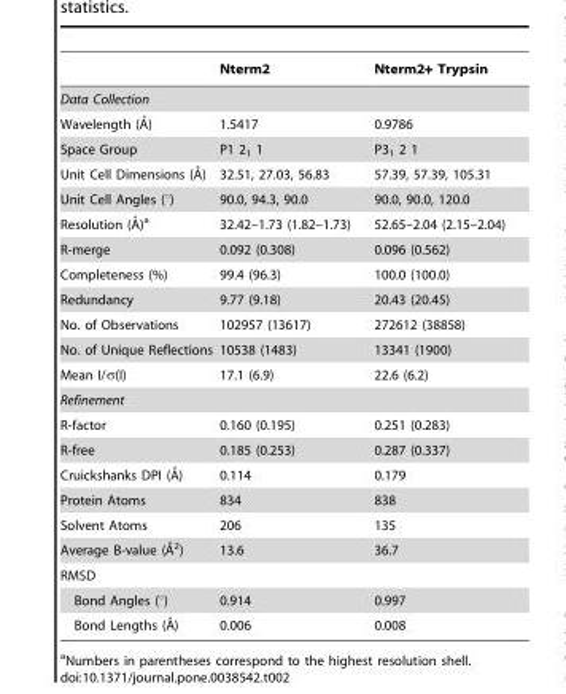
<table><thead><tr><td></td><td>Nterm2</td><td>Nterm2+ Trypsin</td></tr></thead><tbody><tr><td colspan="3">Data Collection</td></tr><tr><td>Wavelength (A˚)</td><td>1.5417</td><td>0.9786</td></tr><tr><td>Space Group</td><td>P1 2<sub>1</sub> 1</td><td>P3<sub>1</sub> 2 1</td></tr><tr><td>Unit Cell Dimensions (A˚)</td><td>32.51, 27.03, 56.83</td><td>57.39, 57.39, 105.31</td></tr><tr><td>Unit Cell Angles (°)</td><td>90.0, 94.3, 90.0</td><td>90.0, 90.0, 120.0</td></tr><tr><td>Resolution (A˚)a</td><td>32.42–1.73 (1.82–1.73)</td><td>52.65–2.04 (2.15–2.04)</td></tr><tr><td>R-merge</td><td>0.092 (0.308)</td><td>0.096 (0.562)</td></tr><tr><td>Completeness (%)</td><td>99.4 (96.3)</td><td>100.0 (100.0)</td></tr><tr><td>Redundancy</td><td>9.77 (9.18)</td><td>20.43 (20.45)</td></tr><tr><td>No. of Observations</td><td>102957 (13617)</td><td>272612 (38858)</td></tr><tr><td>No. of Unique Reflections</td><td>10538 (1483)</td><td>13341 (1900)</td></tr><tr><td>Mean I/σ(I)</td><td>17.1 (6.9)</td><td>22.6 (6.2)</td></tr><tr><td colspan="3">Refinement</td></tr><tr><td>R-factor</td><td>0.160 (0.195)</td><td>0.251 (0.283)</td></tr><tr><td>R-free</td><td>0.185 (0.253)</td><td>0.287 (0.337)</td></tr><tr><td>Cruickshanks DPI (A˚)</td><td>0.114</td><td>0.179</td></tr><tr><td>Protein Atoms</td><td>834</td><td>838</td></tr><tr><td>Solvent Atoms</td><td>206</td><td>135</td></tr><tr><td>Average B-value (A˚2)</td><td>13.6</td><td>36.7</td></tr><tr><td colspan="3">RMSD</td></tr><tr><td>Bond Angles (°)</td><td>0.914</td><td>0.997</td></tr><tr><td>Bond Lengths (A˚)</td><td>0.006</td><td>0.008</td></tr></tbody></table>